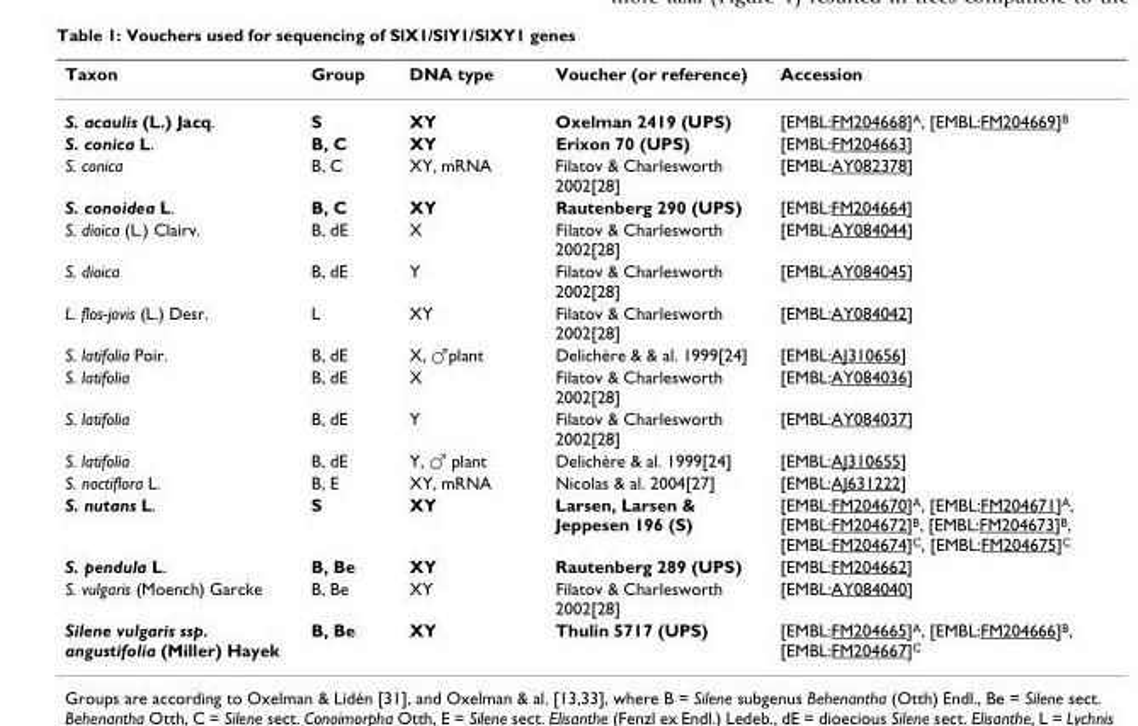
<table><thead><tr><td>Taxon</td><td>Group</td><td>DNA type</td><td>Voucher (or reference)</td><td>Accession</td></tr></thead><tbody><tr><td>S. acaulis (L.) Jacq.</td><td>S</td><td>XY</td><td>Oxelman 2419 (UPS)</td><td>[EMBL:FM204668]<sup>A</sup>, [EMBL:FM204669]<sup>B</sup></td></tr><tr><td>S. conica L.</td><td>B, C</td><td>XY</td><td>Erixon 70 (UPS)</td><td>[EMBL:FM204663]</td></tr><tr><td>S. conica</td><td>B, C</td><td>XY, mRNA</td><td>Filatov &amp; Charlesworth 2002[28]</td><td>[EMBL:AY082378]</td></tr><tr><td>S. conoidea L.</td><td>B, C</td><td>XY</td><td>Rautenberg 290 (UPS)</td><td>[EMBL:FM204664]</td></tr><tr><td>S. dioica (L.) Clairv.</td><td>B, dE</td><td>X</td><td>Filatov &amp; Charlesworth 2002[28]</td><td>[EMBL:AY084044]</td></tr><tr><td>S. dioica</td><td>B, dE</td><td>Y</td><td>Filatov &amp; Charlesworth 2002[28]</td><td>[EMBL:AY084045]</td></tr><tr><td>L. flos-jovis (L.) Desr.</td><td>L</td><td>XY</td><td>Filatov &amp; Charlesworth 2002[28]</td><td>[EMBL:AY084042]</td></tr><tr><td>S. latifolia Poir.</td><td>B, dE</td><td>X, ♂plant</td><td>Delichère &amp; &amp; al. 1999[24]</td><td>[EMBL:AJ310656]</td></tr><tr><td>S. latifolia</td><td>B, dE</td><td>X</td><td>Filatov &amp; Charlesworth 2002[28]</td><td>[EMBL:AY084036]</td></tr><tr><td>S. latifolia</td><td>B, dE</td><td>Y</td><td>Filatov &amp; Charlesworth 2002[28]</td><td>[EMBL:AY084037]</td></tr><tr><td>S. latifolia</td><td>B, dE</td><td>Y, ♂ plant</td><td>Delichère &amp; al. 1999[24]</td><td>[EMBL:AJ310655]</td></tr><tr><td>S. noctiflora L.</td><td>B, E</td><td>XY, mRNA</td><td>Nicolas &amp; al. 2004[27]</td><td>[EMBL:AJ631222]</td></tr><tr><td>S. nutans L.</td><td>S</td><td>XY</td><td>Larsen, Larsen &amp; Jeppesen 196 (S)</td><td>[EMBL:FM204670]<sup>A</sup>, [EMBL:FM204671]<sup>A</sup>, [EMBL:FM204672]<sup>B</sup>, [EMBL:FM204673]<sup>B</sup>, [EMBL:FM204674]<sup>C</sup>, [EMBL:FM204675]<sup>C</sup></td></tr><tr><td>S. pendula L.</td><td>B, Be</td><td>XY</td><td>Rautenberg 289 (UPS)</td><td>[EMBL:FM204662]</td></tr><tr><td>S. vulgaris (Moench) Garcke</td><td>B, Be</td><td>XY</td><td>Filatov &amp; Charlesworth 2002[28]</td><td>[EMBL:AY084040]</td></tr><tr><td>Silene vulgaris ssp. angustifolia (Miller) Hayek</td><td>B, Be</td><td>XY</td><td>Thulin 5717 (UPS)</td><td>[EMBL:FM204665]<sup>A</sup>, [EMBL:FM204666]<sup>B</sup>, [EMBL:FM204667]<sup>C</sup></td></tr></tbody></table>